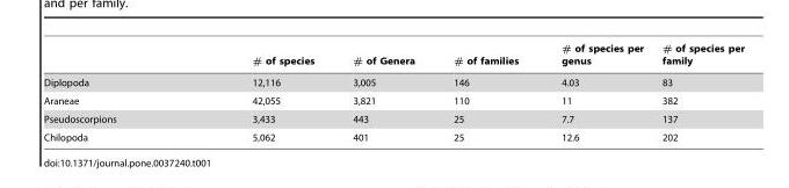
<table><thead><tr><td></td><td># of species</td><td># of Genera</td><td># of families</td><td># of species per genus</td><td># of species per family</td></tr></thead><tbody><tr><td>Diplopoda</td><td>12,116</td><td>3,005</td><td>146</td><td>4.03</td><td>83</td></tr><tr><td>Araneae</td><td>42,055</td><td>3,821</td><td>110</td><td>11</td><td>382</td></tr><tr><td>Pseudoscorpions</td><td>3,433</td><td>443</td><td>25</td><td>7.7</td><td>137</td></tr><tr><td>Chilopoda</td><td>5,062</td><td>401</td><td>25</td><td>12.6</td><td>202</td></tr></tbody></table>